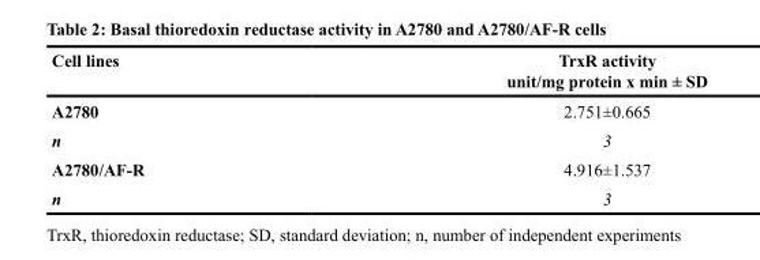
<table><thead><tr><td>Cell lines</td><td>TrxR activity unit/mg protein x min ± SD</td></tr></thead><tbody><tr><td>A2780</td><td>2.751±0.665</td></tr><tr><td>n</td><td>3</td></tr><tr><td>A2780/AF-R</td><td>4.916±1.537</td></tr><tr><td>n</td><td>3</td></tr></tbody></table>